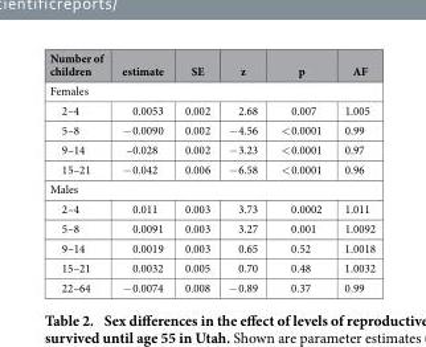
<table><thead><tr><td>Number of children</td><td>estimate</td><td>SE</td><td>z</td><td>p</td><td>AF</td></tr></thead><tbody><tr><td colspan="6">Females</td></tr><tr><td>2–4</td><td>0.0053</td><td>0.002</td><td>2.68</td><td>0.007</td><td>1.005</td></tr><tr><td>5–8</td><td>− 0.0090</td><td>0.002</td><td>− 4.56</td><td>&lt; 0.0001</td><td>0.99</td></tr><tr><td>9–14</td><td>–0.028</td><td>0.002</td><td>− 3.23</td><td>&lt; 0.0001</td><td>0.97</td></tr><tr><td>15–21</td><td>− 0.042</td><td>0.006</td><td>− 6.58</td><td>&lt; 0.0001</td><td>0.96</td></tr><tr><td colspan="6">Males</td></tr><tr><td>2–4</td><td>0.011</td><td>0.003</td><td>3.73</td><td>0.0002</td><td>1.011</td></tr><tr><td>5–8</td><td>0.0091</td><td>0.003</td><td>3.27</td><td>0.001</td><td>1.0092</td></tr><tr><td>9–14</td><td>0.0019</td><td>0.003</td><td>0.65</td><td>0.52</td><td>1.0018</td></tr><tr><td>15–21</td><td>0.0032</td><td>0.005</td><td>0.70</td><td>0.48</td><td>1.0032</td></tr><tr><td>22–64</td><td>− 0.0074</td><td>0.008</td><td>− 0.89</td><td>0.37</td><td>0.99</td></tr></tbody></table>